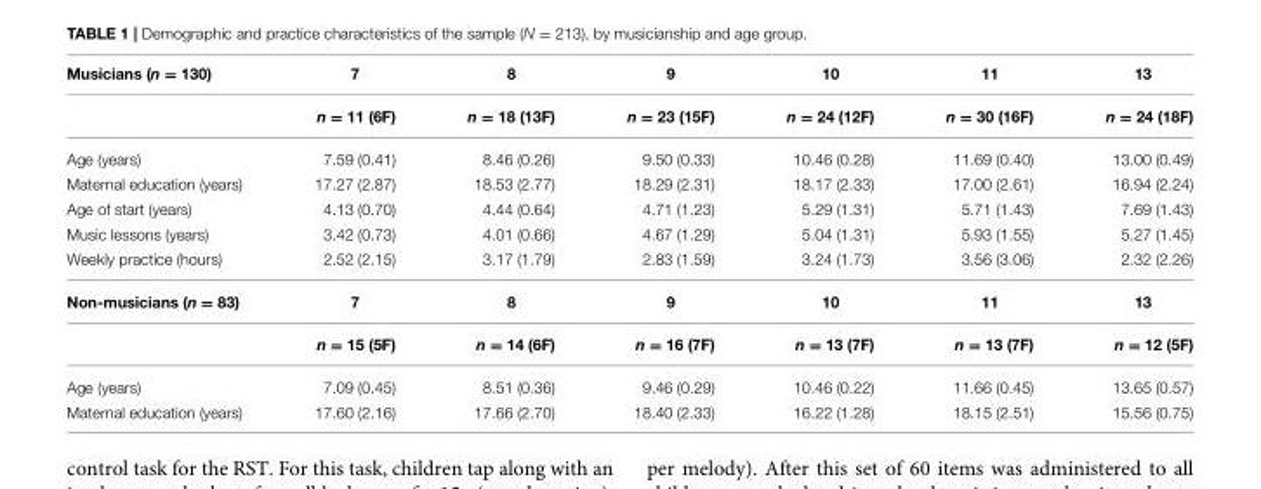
<table><thead><tr><td rowspan="2">Musicians (n = 130)</td><td rowspan="2">7 n = 11 (6F)</td><td rowspan="2">8 n = 18 (13F)</td><td rowspan="2">9 n = 23 (15F)</td><td rowspan="2">10 n = 24 (12F)</td><td rowspan="2">11 n = 30 (16F)</td><td rowspan="2">13 n = 24 (18F)</td></tr><tr></tr></thead><tbody><tr><td>Age (years)</td><td>7.59 (0.41)</td><td>8.46 (0.26)</td><td>9.50 (0.33)</td><td>10.46 (0.28)</td><td>11.69 (0.40)</td><td>13.00 (0.49)</td></tr><tr><td>Maternal education (years)</td><td>17.27 (2.87)</td><td>18.53 (2.77)</td><td>18.29 (2.31)</td><td>18.17 (2.33)</td><td>17.00 (2.61)</td><td>16.94 (2.24)</td></tr><tr><td>Age of start (years)</td><td>4.13 (0.70)</td><td>4.44 (0.64)</td><td>4.71 (1.23)</td><td>5.29 (1.31)</td><td>5.71 (1.43)</td><td>7.69 (1.43)</td></tr><tr><td>Music lessons (years)</td><td>3.42 (0.73)</td><td>4.01 (0.66)</td><td>4.67 (1.29)</td><td>5.04 (1.31)</td><td>5.93 (1.55)</td><td>5.27 (1.45)</td></tr><tr><td>Weekly practice (hours)</td><td>2.52 (2.15)</td><td>3.17 (1.79)</td><td>2.83 (1.59)</td><td>3.24 (1.73)</td><td>3.56 (3.06)</td><td>2.32 (2.26)</td></tr><tr><td rowspan="2">Non-musicians (n = 83)</td><td>7</td><td>8</td><td>9</td><td>10</td><td>11</td><td>13</td></tr><tr><td>n = 15 (5F)</td><td>n = 14 (6F)</td><td>n = 16 (7F)</td><td>n = 13 (7F)</td><td>n = 13 (7F)</td><td>n = 12 (5F)</td></tr><tr><td>Age (years)</td><td>7.09 (0.45)</td><td>8.51 (0.36)</td><td>9.46 (0.29)</td><td>10.46 (0.22)</td><td>11.66 (0.45)</td><td>13.65 (0.57)</td></tr><tr><td>Maternal education (years)</td><td>17.60 (2.16)</td><td>17.66 (2.70)</td><td>18.40 (2.33)</td><td>16.22 (1.28)</td><td>18.15 (2.51)</td><td>15.56 (0.75)</td></tr></tbody></table>